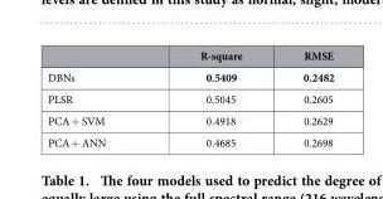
<table><thead><tr><td></td><td>R-square</td><td>RMSE</td></tr></thead><tbody><tr><td>DBNs</td><td>0.5409</td><td>0.2482</td></tr><tr><td>PLSR</td><td>0.5045</td><td>0.2605</td></tr><tr><td>PCA + SVM</td><td>0.4918</td><td>0.2629</td></tr><tr><td>PCA + ANN</td><td>0.4685</td><td>0.2698</td></tr></tbody></table>